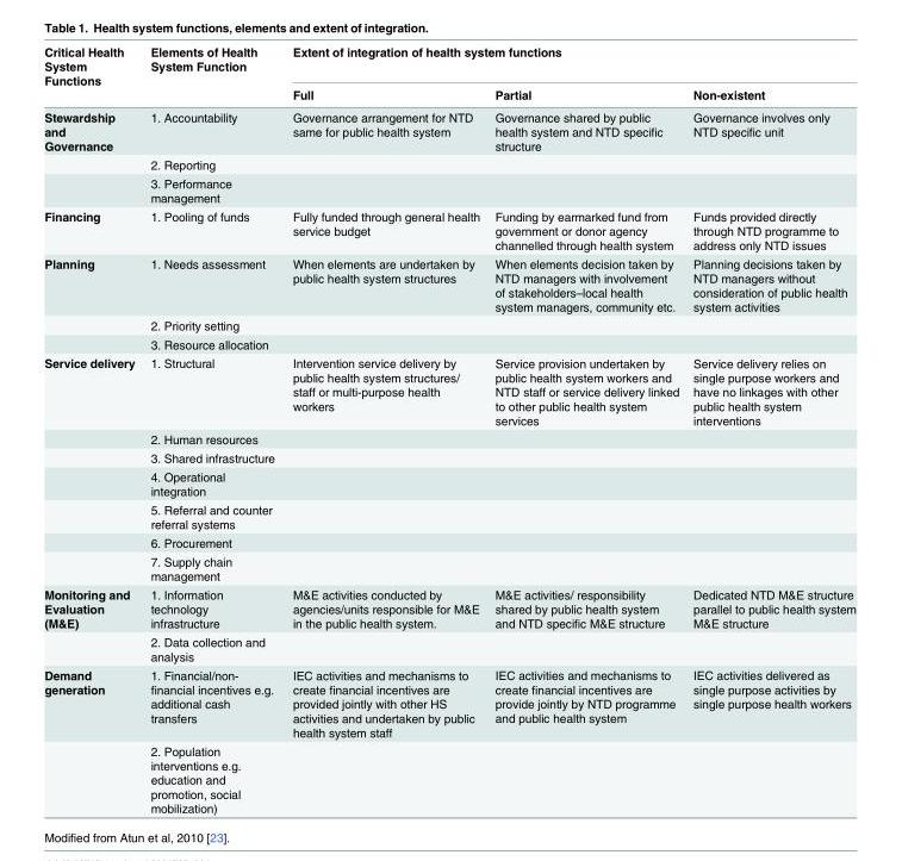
<table><thead><tr><td rowspan="2">Critical Health System Functions</td><td rowspan="2">Elements of Health System Function</td><td colspan="3">Extent of integration of health system functions</td></tr><tr><td>Full</td><td>Partial</td><td>Non-existent</td></tr></thead><tbody><tr><td rowspan="3">Stewardship and Governance</td><td>1. Accountability</td><td>Governance arrangement for NTD same for public health system</td><td>Governance shared by public health system and NTD specific structure</td><td>Governance involves only NTD specific unit</td></tr><tr><td>2. Reporting</td><td></td><td></td><td></td></tr><tr><td>3. Performance management</td><td></td><td></td><td></td></tr><tr><td>Financing</td><td>1. Pooling of funds</td><td>Fully funded through general health service budget</td><td>Funding by earmarked fund from government or donor agency channelled through health system</td><td>Funds provided directly through NTD programme to address only NTD issues</td></tr><tr><td rowspan="3">Planning</td><td>1. Needs assessment</td><td>When elements are undertaken by public health system structures</td><td>When elements decision taken by NTD managers with involvement of stakeholders–local health system managers, community etc.</td><td>Planning decisions taken by NTD managers without consideration of public health system activities</td></tr><tr><td>2. Priority setting</td><td></td><td></td><td></td></tr><tr><td>3. Resource allocation</td><td></td><td></td><td></td></tr><tr><td rowspan="7">Service delivery</td><td>1. Structural</td><td>Intervention service delivery by public health system structures/ staff or multi-purpose health workers</td><td>Service provision undertaken by public health system workers and NTD staff or service delivery linked to other public health system services</td><td>Service delivery relies on single purpose workers and have no linkages with other public health system interventions</td></tr><tr><td>2. Human resources</td><td></td><td></td><td></td></tr><tr><td>3. Shared infrastructure</td><td></td><td></td><td></td></tr><tr><td>4. Operational integration</td><td></td><td></td><td></td></tr><tr><td>5. Referral and counter referral systems</td><td></td><td></td><td></td></tr><tr><td>6. Procurement</td><td></td><td></td><td></td></tr><tr><td>7. Supply chain management</td><td></td><td></td><td></td></tr><tr><td rowspan="2">Monitoring and Evaluation (M&amp;E)</td><td>1. Information technology infrastructure</td><td>M&amp;E activities conducted by agencies/units responsible for M&amp;E in the public health system.</td><td>M&amp;E activities/ responsibility shared by public health system and NTD specific M&amp;E structure</td><td>Dedicated NTD M&amp;E structure parallel to public health system M&amp;E structure</td></tr><tr><td>2. Data collection and analysis</td><td></td><td></td><td></td></tr><tr><td rowspan="2">Demand generation</td><td>1. Financial/non- financial incentives e.g. additional cash transfers</td><td>IEC activities and mechanisms to create financial incentives are provided jointly with other HS activities and undertaken by public health system staff</td><td>IEC activities and mechanisms to create financial incentives are provide jointly by NTD programme and public health system</td><td>IEC activities delivered as single purpose activities by single purpose health workers</td></tr><tr><td>2. Population interventions e.g. education and promotion, social mobilization)</td><td></td><td></td><td></td></tr></tbody></table>